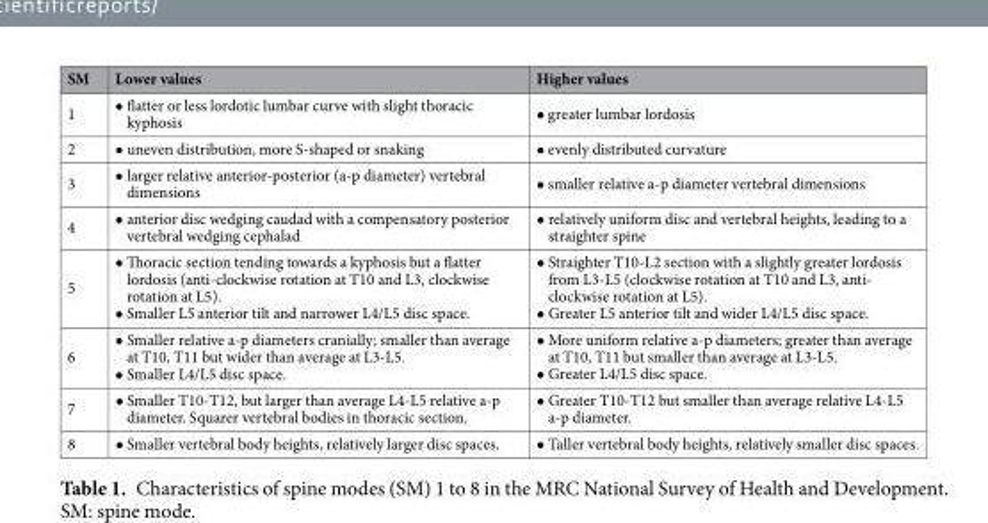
<table><thead><tr><td>SM</td><td>Lower values</td><td>Higher values</td></tr></thead><tbody><tr><td>1</td><td>• flatter or less lordotic lumbar curve with slight thoracic kyphosis</td><td>• greater lumbar lordosis</td></tr><tr><td>2</td><td>• uneven distribution, more S-shaped or snaking</td><td>• evenly distributed curvature</td></tr><tr><td>3</td><td>• larger relative anterior-posterior (a-p diameter) vertebral dimensions</td><td>• smaller relative a-p diameter vertebral dimensions</td></tr><tr><td>4</td><td>• anterior disc wedging caudad with a compensatory posterior vertebral wedging cephalad</td><td>• relatively uniform disc and vertebral heights, leading to a straighter spine</td></tr><tr><td>5</td><td>• Thoracic section tending towards a kyphosis but a flatter lordosis (anti-clockwise rotation at T10 and L3, clockwise rotation at L5). • Smaller L5 anterior tilt and narrower L4/L5 disc space.</td><td>• Straighter T10-L2 section with a slightly greater lordosis from L3-L5 (clockwise rotation at T10 and L3, anti- clockwise rotation at L5). • Greater L5 anterior tilt and wider L4/L5 disc space.</td></tr><tr><td>6</td><td>• Smaller relative a-p diameters cranially; smaller than average at T10, T11 but wider than average at L3-L5. • Smaller L4/L5 disc space.</td><td>• More uniform relative a-p diameters; greater than average at T10, T11 but smaller than average at L3-L5. • Greater L4/L5 disc space.</td></tr><tr><td>7</td><td>• Smaller T10-T12, but larger than average L4-L5 relative a-p diameter. Squarer vertebral bodies in thoracic section.</td><td>• Greater T10-T12 but smaller than average relative L4-L5 a-p diameter.</td></tr><tr><td>8</td><td>• Smaller vertebral body heights, relatively larger disc spaces.</td><td>• Taller vertebral body heights, relatively smaller disc spaces.</td></tr></tbody></table>